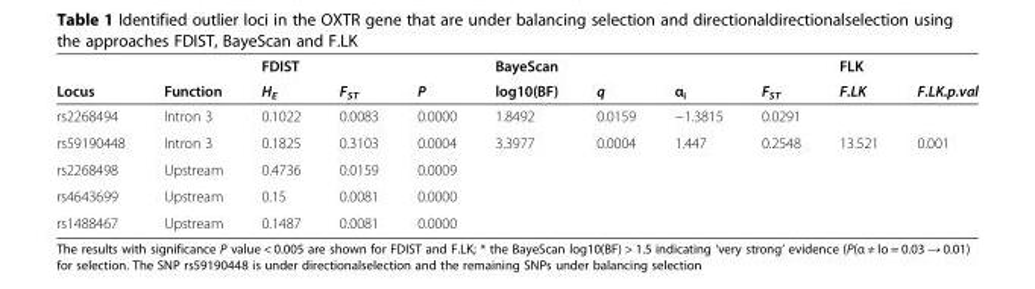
<table><thead><tr><td rowspan="2">Locus</td><td rowspan="2">Function</td><td colspan="3">FDIST</td><td colspan="4">BayeScan</td><td colspan="2">FLK</td></tr><tr><td>H<sub>E</sub></td><td>F<sub>ST</sub></td><td>P</td><td>log10(BF)</td><td>q</td><td>α<sub>i</sub></td><td>F<sub>ST</sub></td><td>F.LK</td><td>F.LK.p.val</td></tr></thead><tbody><tr><td>rs2268494</td><td>Intron 3</td><td>0.1022</td><td>0.0083</td><td>0.0000</td><td>1.8492</td><td>0.0159</td><td>−1.3815</td><td>0.0291</td><td></td><td></td></tr><tr><td>rs59190448</td><td>Intron 3</td><td>0.1825</td><td>0.3103</td><td>0.0004</td><td>3.3977</td><td>0.0004</td><td>1.447</td><td>0.2548</td><td>13.521</td><td>0.001</td></tr><tr><td>rs2268498</td><td>Upstream</td><td>0.4736</td><td>0.0159</td><td>0.0009</td><td></td><td></td><td></td><td></td><td></td><td></td></tr><tr><td>rs4643699</td><td>Upstream</td><td>0.15</td><td>0.0081</td><td>0.0000</td><td></td><td></td><td></td><td></td><td></td><td></td></tr><tr><td>rs1488467</td><td>Upstream</td><td>0.1487</td><td>0.0081</td><td>0.0000</td><td></td><td></td><td></td><td></td><td></td><td></td></tr></tbody></table>